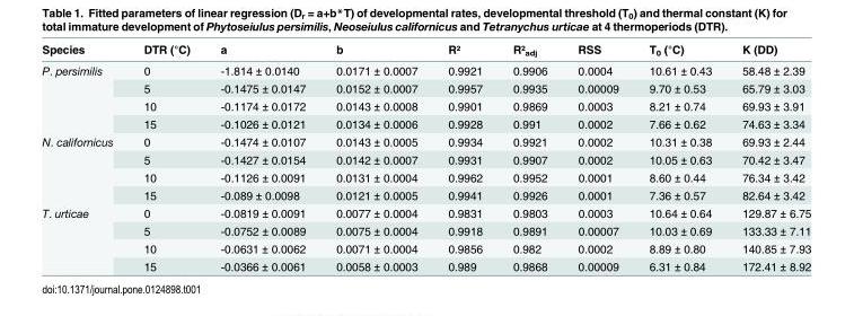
<table><thead><tr><td>Species</td><td>DTR (°C)</td><td>a</td><td>b</td><td>R²</td><td>R²<sub>adj</sub></td><td>RSS</td><td>T<sub>0</sub> (°C)</td><td>K (DD)</td></tr></thead><tbody><tr><td rowspan="4">P. persimilis</td><td>0</td><td>-1.814 ± 0.0140</td><td>0.0171 ± 0.0007</td><td>0.9921</td><td>0.9906</td><td>0.0004</td><td>10.61 ± 0.43</td><td>58.48 ± 2.39</td></tr><tr><td>5</td><td>-0.1475 ± 0.0147</td><td>0.0152 ± 0.0007</td><td>0.9957</td><td>0.9935</td><td>0.00009</td><td>9.70 ± 0.53</td><td>65.79 ± 3.03</td></tr><tr><td>10</td><td>-0.1174 ± 0.0172</td><td>0.0143 ± 0.0008</td><td>0.9901</td><td>0.9869</td><td>0.0003</td><td>8.21 ± 0.74</td><td>69.93 ± 3.91</td></tr><tr><td>15</td><td>-0.1026 ± 0.0121</td><td>0.0134 ± 0.0006</td><td>0.9928</td><td>0.991</td><td>0.0002</td><td>7.66 ± 0.62</td><td>74.63 ± 3.34</td></tr><tr><td rowspan="4">N. californicus</td><td>0</td><td>-0.1474 ± 0.0107</td><td>0.0143 ± 0.0005</td><td>0.9934</td><td>0.9921</td><td>0.0002</td><td>10.31 ± 0.38</td><td>69.93 ± 2.44</td></tr><tr><td>5</td><td>-0.1427 ± 0.0154</td><td>0.0142 ± 0.0007</td><td>0.9931</td><td>0.9907</td><td>0.0002</td><td>10.05 ± 0.63</td><td>70.42 ± 3.47</td></tr><tr><td>10</td><td>-0.1126 ± 0.0091</td><td>0.0131 ± 0.0004</td><td>0.9962</td><td>0.9952</td><td>0.0001</td><td>8.60 ± 0.44</td><td>76.34 ± 3.42</td></tr><tr><td>15</td><td>-0.089 ± 0.0098</td><td>0.0121 ± 0.0005</td><td>0.9941</td><td>0.9926</td><td>0.0001</td><td>7.36 ± 0.57</td><td>82.64 ± 3.42</td></tr><tr><td rowspan="4">T. urticae</td><td>0</td><td>-0.0819 ± 0.0091</td><td>0.0077 ± 0.0004</td><td>0.9831</td><td>0.9803</td><td>0.0003</td><td>10.64 ± 0.64</td><td>129.87 ± 6.75</td></tr><tr><td>5</td><td>-0.0752 ± 0.0089</td><td>0.0075 ± 0.0004</td><td>0.9918</td><td>0.9891</td><td>0.00007</td><td>10.03 ± 0.69</td><td>133.33 ± 7.11</td></tr><tr><td>10</td><td>-0.0631 ± 0.0062</td><td>0.0071 ± 0.0004</td><td>0.9856</td><td>0.982</td><td>0.0002</td><td>8.89 ± 0.80</td><td>140.85 ± 7.93</td></tr><tr><td>15</td><td>-0.0366 ± 0.0061</td><td>0.0058 ± 0.0003</td><td>0.989</td><td>0.9868</td><td>0.00009</td><td>6.31 ± 0.84</td><td>172.41 ± 8.92</td></tr></tbody></table>